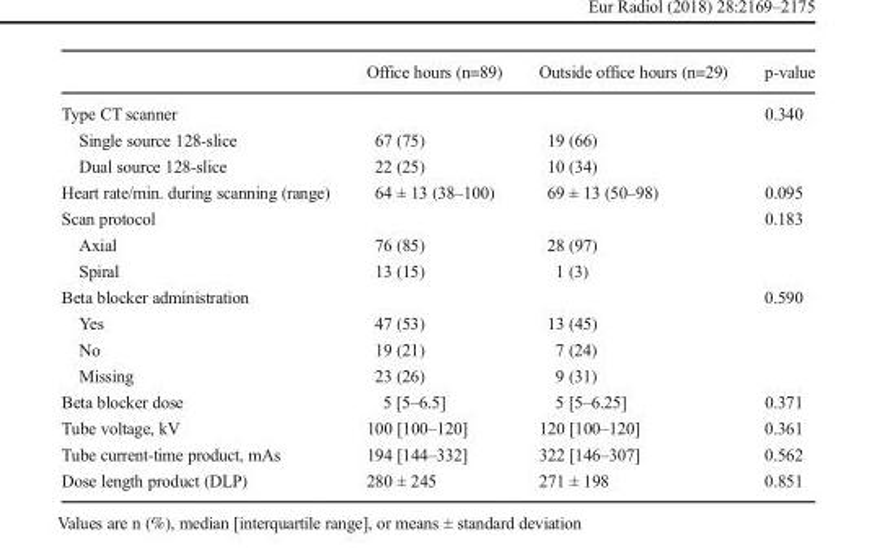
<table><thead><tr><td></td><td>Office hours (n=89)</td><td>Outside office hours (n=29)</td><td>p-value</td></tr></thead><tbody><tr><td>Type CT scanner</td><td></td><td></td><td>0.340</td></tr><tr><td>Single source 128-slice</td><td>67 (75)</td><td>19 (66)</td><td></td></tr><tr><td>Dual source 128-slice</td><td>22 (25)</td><td>10 (34)</td><td></td></tr><tr><td>Heart rate/min. during scanning (range)</td><td>64 ± 13 (38–100)</td><td>69 ± 13 (50–98)</td><td>0.095</td></tr><tr><td>Scan protocol</td><td></td><td></td><td>0.183</td></tr><tr><td>Axial</td><td>76 (85)</td><td>28 (97)</td><td></td></tr><tr><td>Spiral</td><td>13 (15)</td><td>1 (3)</td><td></td></tr><tr><td>Beta blocker administration</td><td></td><td></td><td>0.590</td></tr><tr><td>Yes</td><td>47 (53)</td><td>13 (45)</td><td></td></tr><tr><td>No</td><td>19 (21)</td><td>7 (24)</td><td></td></tr><tr><td>Missing</td><td>23 (26)</td><td>9 (31)</td><td></td></tr><tr><td>Beta blocker dose</td><td>5 [5–6.5]</td><td>5 [5–6.25]</td><td>0.371</td></tr><tr><td>Tube voltage, kV</td><td>100 [100–120]</td><td>120 [100–120]</td><td>0.361</td></tr><tr><td>Tube current-time product, mAs</td><td>194 [144–332]</td><td>322 [146–307]</td><td>0.562</td></tr><tr><td>Dose length product (DLP)</td><td>280 ± 245</td><td>271 ± 198</td><td>0.851</td></tr></tbody></table>